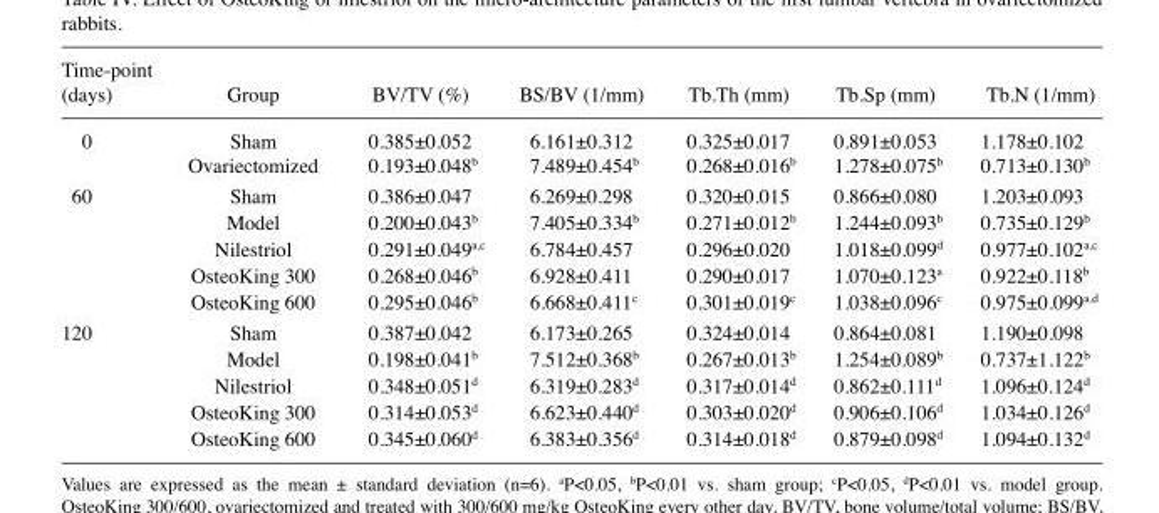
<table><thead><tr><td>Time-point (days)</td><td>Group</td><td>BV/TV (%)</td><td>BS/BV (1/mm)</td><td>Tb.Th (mm)</td><td>Tb.Sp (mm)</td><td>Tb.N (1/mm)</td></tr></thead><tbody><tr><td rowspan="2">0</td><td>Sham</td><td>0.385±0.052</td><td>6.161±0.312</td><td>0.325±0.017</td><td>0.891±0.053</td><td>1.178±0.102</td></tr><tr><td>Ovariectomized</td><td>0.193±0.048<sup>b</sup></td><td>7.489±0.454<sup>b</sup></td><td>0.268±0.016<sup>b</sup></td><td>1.278±0.075<sup>b</sup></td><td>0.713±0.130<sup>b</sup></td></tr><tr><td rowspan="5">60</td><td>Sham</td><td>0.386±0.047</td><td>6.269±0.298</td><td>0.320±0.015</td><td>0.866±0.080</td><td>1.203±0.093</td></tr><tr><td>Model</td><td>0.200±0.043<sup>b</sup></td><td>7.405±0.334<sup>b</sup></td><td>0.271±0.012<sup>b</sup></td><td>1.244±0.093<sup>b</sup></td><td>0.735±0.129<sup>b</sup></td></tr><tr><td>Nilestriol</td><td>0.291±0.049<sup>a</sup>,<sup>c</sup></td><td>6.784±0.457</td><td>0.296±0.020</td><td>1.018±0.099<sup>d</sup></td><td>0.977±0.102<sup>a</sup>,<sup>c</sup></td></tr><tr><td>OsteoKing 300</td><td>0.268±0.046<sup>b</sup></td><td>6.928±0.411</td><td>0.290±0.017</td><td>1.070±0.123<sup>a</sup></td><td>0.922±0.118<sup>b</sup></td></tr><tr><td>OsteoKing 600</td><td>0.295±0.046<sup>b</sup></td><td>6.668±0.411<sup>c</sup></td><td>0.301±0.019<sup>c</sup></td><td>1.038±0.096<sup>c</sup></td><td>0.975±0.099<sup>a</sup>,<sup>d</sup></td></tr><tr><td rowspan="5">120</td><td>Sham</td><td>0.387±0.042</td><td>6.173±0.265</td><td>0.324±0.014</td><td>0.864±0.081</td><td>1.190±0.098</td></tr><tr><td>Model</td><td>0.198±0.041<sup>b</sup></td><td>7.512±0.368<sup>b</sup></td><td>0.267±0.013<sup>b</sup></td><td>1.254±0.089<sup>b</sup></td><td>0.737±1.122<sup>b</sup></td></tr><tr><td>Nilestriol</td><td>0.348±0.051<sup>d</sup></td><td>6.319±0.283<sup>d</sup></td><td>0.317±0.014<sup>d</sup></td><td>0.862±0.111<sup>d</sup></td><td>1.096±0.124<sup>d</sup></td></tr><tr><td>OsteoKing 300</td><td>0.314±0.053<sup>d</sup></td><td>6.623±0.440<sup>d</sup></td><td>0.303±0.020<sup>d</sup></td><td>0.906±0.106<sup>d</sup></td><td>1.034±0.126<sup>d</sup></td></tr><tr><td>OsteoKing 600</td><td>0.345±0.060<sup>d</sup></td><td>6.383±0.356<sup>d</sup></td><td>0.314±0.018<sup>d</sup></td><td>0.879±0.098<sup>d</sup></td><td>1.094±0.132<sup>d</sup></td></tr></tbody></table>